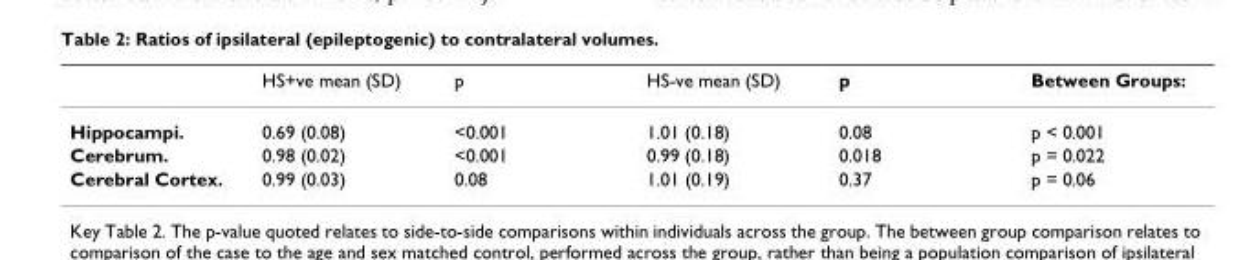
<table><thead><tr><td></td><td>HS+ve mean (SD)</td><td>p</td><td>HS-ve mean (SD)</td><td>p</td><td>Between Groups:</td></tr></thead><tbody><tr><td>Hippocampi.</td><td>0.69 (0.08)</td><td>&lt;0.001</td><td>1.01 (0.18)</td><td>0.08</td><td>p &lt; 0.001</td></tr><tr><td>Cerebrum.</td><td>0.98 (0.02)</td><td>&lt;0.001</td><td>0.99 (0.18)</td><td>0.018</td><td>p = 0.022</td></tr><tr><td>Cerebral Cortex.</td><td>0.99 (0.03)</td><td>0.08</td><td>1.01 (0.19)</td><td>0.37</td><td>p = 0.06</td></tr></tbody></table>